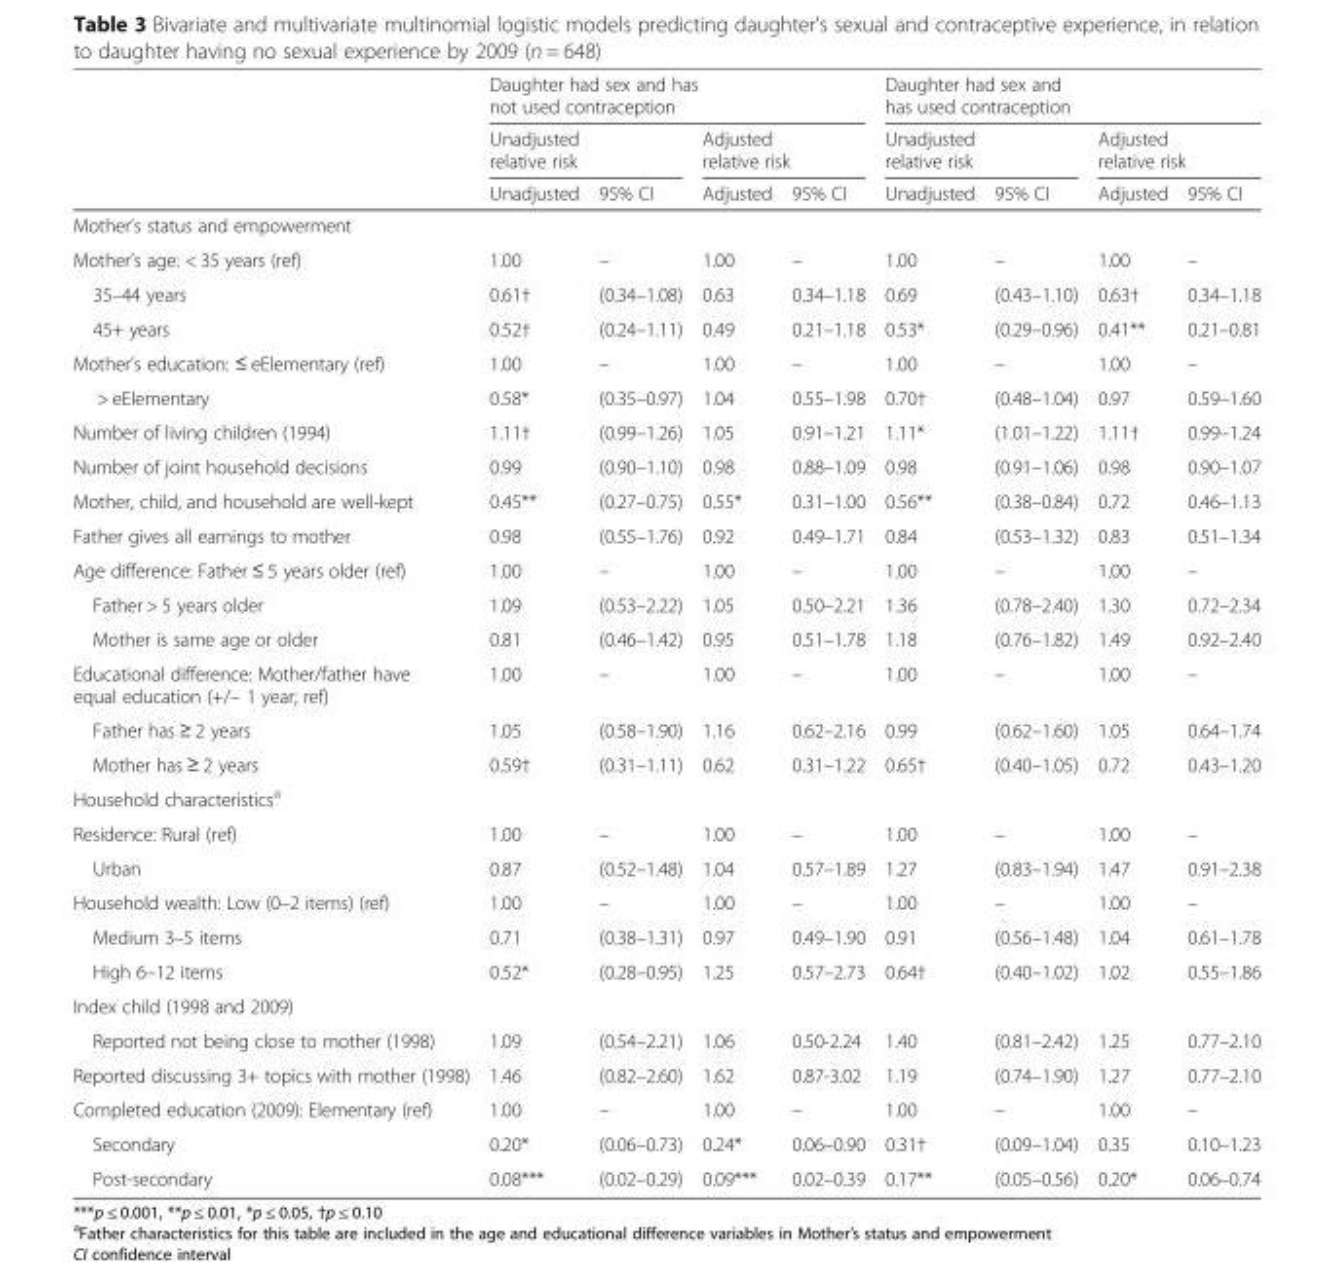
<table><thead><tr><td rowspan="3"></td><td colspan="4">Daughter had sex and has not used contraception</td><td colspan="4">Daughter had sex and has used contraception</td></tr><tr><td colspan="2">Unadjusted relative risk</td><td colspan="2">Adjusted relative risk</td><td colspan="2">Unadjusted relative risk</td><td colspan="2">Adjusted relative risk</td></tr><tr><td>Unadjusted</td><td>95% CI</td><td>Adjusted</td><td>95% CI</td><td>Unadjusted</td><td>95% CI</td><td>Adjusted</td><td>95% CI</td></tr></thead><tbody><tr><td colspan="9">Mother’s status and empowerment</td></tr><tr><td>Mother’s age: &lt; 35 years (ref)</td><td>1.00</td><td>–</td><td>1.00</td><td>–</td><td>1.00</td><td>–</td><td>1.00</td><td>–</td></tr><tr><td>35–44 years</td><td>0.61†</td><td>(0.34–1.08)</td><td>0.63</td><td>0.34–1.18</td><td>0.69</td><td>(0.43–1.10)</td><td>0.63†</td><td>0.34–1.18</td></tr><tr><td>45+ years</td><td>0.52†</td><td>(0.24–1.11)</td><td>0.49</td><td>0.21–1.18</td><td>0.53*</td><td>(0.29–0.96)</td><td>0.41**</td><td>0.21–0.81</td></tr><tr><td>Mother’s education: ≤ eElementary (ref)</td><td>1.00</td><td>–</td><td>1.00</td><td>–</td><td>1.00</td><td>–</td><td>1.00</td><td>–</td></tr><tr><td>&gt; eElementary</td><td>0.58*</td><td>(0.35–0.97)</td><td>1.04</td><td>0.55–1.98</td><td>0.70†</td><td>(0.48–1.04)</td><td>0.97</td><td>0.59–1.60</td></tr><tr><td>Number of living children (1994)</td><td>1.11†</td><td>(0.99–1.26)</td><td>1.05</td><td>0.91–1.21</td><td>1.11*</td><td>(1.01–1.22)</td><td>1.11†</td><td>0.99–1.24</td></tr><tr><td>Number of joint household decisions</td><td>0.99</td><td>(0.90–1.10)</td><td>0.98</td><td>0.88–1.09</td><td>0.98</td><td>(0.91–1.06)</td><td>0.98</td><td>0.90–1.07</td></tr><tr><td>Mother, child, and household are well-kept</td><td>0.45**</td><td>(0.27–0.75)</td><td>0.55*</td><td>0.31–1.00</td><td>0.56**</td><td>(0.38–0.84)</td><td>0.72</td><td>0.46–1.13</td></tr><tr><td>Father gives all earnings to mother</td><td>0.98</td><td>(0.55–1.76)</td><td>0.92</td><td>0.49–1.71</td><td>0.84</td><td>(0.53–1.32)</td><td>0.83</td><td>0.51–1.34</td></tr><tr><td>Age difference: Father ≤ 5 years older (ref)</td><td>1.00</td><td>–</td><td>1.00</td><td>–</td><td>1.00</td><td>–</td><td>1.00</td><td>–</td></tr><tr><td>Father &gt; 5 years older</td><td>1.09</td><td>(0.53–2.22)</td><td>1.05</td><td>0.50–2.21</td><td>1.36</td><td>(0.78–2.40)</td><td>1.30</td><td>0.72–2.34</td></tr><tr><td>Mother is same age or older</td><td>0.81</td><td>(0.46–1.42)</td><td>0.95</td><td>0.51–1.78</td><td>1.18</td><td>(0.76–1.82)</td><td>1.49</td><td>0.92–2.40</td></tr><tr><td>Educational difference: Mother/father have equal education (+/– 1 year; ref)</td><td>1.00</td><td>–</td><td>1.00</td><td>–</td><td>1.00</td><td>–</td><td>1.00</td><td>–</td></tr><tr><td>Father has ≥ 2 years</td><td>1.05</td><td>(0.58–1.90)</td><td>1.16</td><td>0.62–2.16</td><td>0.99</td><td>(0.62–1.60)</td><td>1.05</td><td>0.64–1.74</td></tr><tr><td>Mother has ≥ 2 years</td><td>0.59†</td><td>(0.31–1.11)</td><td>0.62</td><td>0.31–1.22</td><td>0.65†</td><td>(0.40–1.05)</td><td>0.72</td><td>0.43–1.20</td></tr><tr><td colspan="9">Household characteristics<sup>a</sup></td></tr><tr><td>Residence: Rural (ref)</td><td>1.00</td><td>–</td><td>1.00</td><td>–</td><td>1.00</td><td>–</td><td>1.00</td><td>–</td></tr><tr><td>Urban</td><td>0.87</td><td>(0.52–1.48)</td><td>1.04</td><td>0.57–1.89</td><td>1.27</td><td>(0.83–1.94)</td><td>1.47</td><td>0.91–2.38</td></tr><tr><td>Household wealth: Low (0–2 items) (ref)</td><td>1.00</td><td>–</td><td>1.00</td><td>–</td><td>1.00</td><td>–</td><td>1.00</td><td>–</td></tr><tr><td>Medium 3–5 items</td><td>0.71</td><td>(0.38–1.31)</td><td>0.97</td><td>0.49–1.90</td><td>0.91</td><td>(0.56–1.48)</td><td>1.04</td><td>0.61–1.78</td></tr><tr><td>High 6–12 items</td><td>0.52*</td><td>(0.28–0.95)</td><td>1.25</td><td>0.57–2.73</td><td>0.64†</td><td>(0.40–1.02)</td><td>1.02</td><td>0.55–1.86</td></tr><tr><td colspan="9">Index child (1998 and 2009)</td></tr><tr><td>Reported not being close to mother (1998)</td><td>1.09</td><td>(0.54–2.21)</td><td>1.06</td><td>0.50-2.24</td><td>1.40</td><td>(0.81–2.42)</td><td>1.25</td><td>0.77–2.10</td></tr><tr><td>Reported discussing 3+ topics with mother (1998)</td><td>1.46</td><td>(0.82–2.60)</td><td>1.62</td><td>0.87-3.02</td><td>1.19</td><td>(0.74–1.90)</td><td>1.27</td><td>0.77–2.10</td></tr><tr><td>Completed education (2009): Elementary (ref)</td><td>1.00</td><td>–</td><td>1.00</td><td>–</td><td>1.00</td><td>–</td><td>1.00</td><td>–</td></tr><tr><td>Secondary</td><td>0.20*</td><td>(0.06–0.73)</td><td>0.24*</td><td>0.06–0.90</td><td>0.31†</td><td>(0.09–1.04)</td><td>0.35</td><td>0.10–1.23</td></tr><tr><td>Post-secondary</td><td>0.08***</td><td>(0.02–0.29)</td><td>0.09***</td><td>0.02–0.39</td><td>0.17**</td><td>(0.05–0.56)</td><td>0.20*</td><td>0.06–0.74</td></tr></tbody></table>